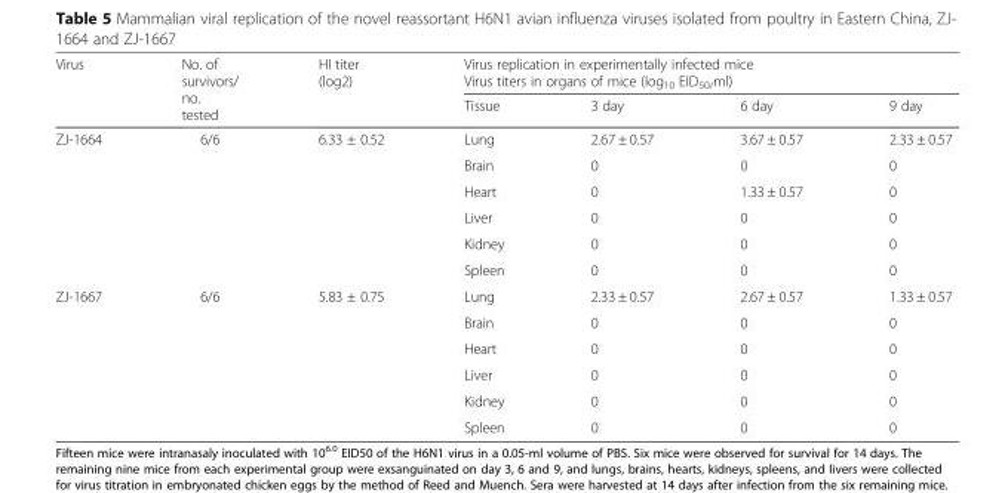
<table><thead><tr><td rowspan="2">Virus</td><td rowspan="2">No. of survivors/ no. tested</td><td rowspan="2">HI titer (log2)</td><td colspan="4">Virus replication in experimentally infected mice Virus titers in organs of mice (log<sub>10</sub> EID<sub>50/</sub>ml)</td></tr><tr><td>Tissue</td><td>3 day</td><td>6 day</td><td>9 day</td></tr></thead><tbody><tr><td rowspan="6">ZJ-1664</td><td rowspan="6">6/6</td><td rowspan="6">6.33 ± 0.52</td><td>Lung</td><td>2.67 ± 0.57</td><td>3.67 ± 0.57</td><td>2.33 ± 0.57</td></tr><tr><td>Brain</td><td>0</td><td>0</td><td>0</td></tr><tr><td>Heart</td><td>0</td><td>1.33 ± 0.57</td><td>0</td></tr><tr><td>Liver</td><td>0</td><td>0</td><td>0</td></tr><tr><td>Kidney</td><td>0</td><td>0</td><td>0</td></tr><tr><td>Spleen</td><td>0</td><td>0</td><td>0</td></tr><tr><td rowspan="6">ZJ-1667</td><td rowspan="6">6/6</td><td rowspan="6">5.83 ± 0.75</td><td>Lung</td><td>2.33 ± 0.57</td><td>2.67 ± 0.57</td><td>1.33 ± 0.57</td></tr><tr><td>Brain</td><td>0</td><td>0</td><td>0</td></tr><tr><td>Heart</td><td>0</td><td>0</td><td>0</td></tr><tr><td>Liver</td><td>0</td><td>0</td><td>0</td></tr><tr><td>Kidney</td><td>0</td><td>0</td><td>0</td></tr><tr><td>Spleen</td><td>0</td><td>0</td><td>0</td></tr></tbody></table>